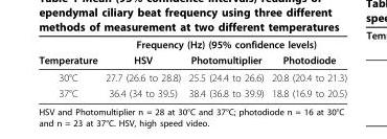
<table><thead><tr><td rowspan="2">Temperature</td><td colspan="3">Frequency (Hz) (95% confidence levels)</td></tr><tr><td>HSV</td><td>Photomultiplier</td><td>Photodiode</td></tr></thead><tbody><tr><td>30°C</td><td>27.7 (26.6 to 28.8)</td><td>25.5 (24.4 to 26.6)</td><td>20.8 (20.4 to 21.3)</td></tr><tr><td>37°C</td><td>36.4 (34 to 39.5)</td><td>38.4 (36.8 to 39.9)</td><td>18.8 (16.9 to 20.5)</td></tr></tbody></table>